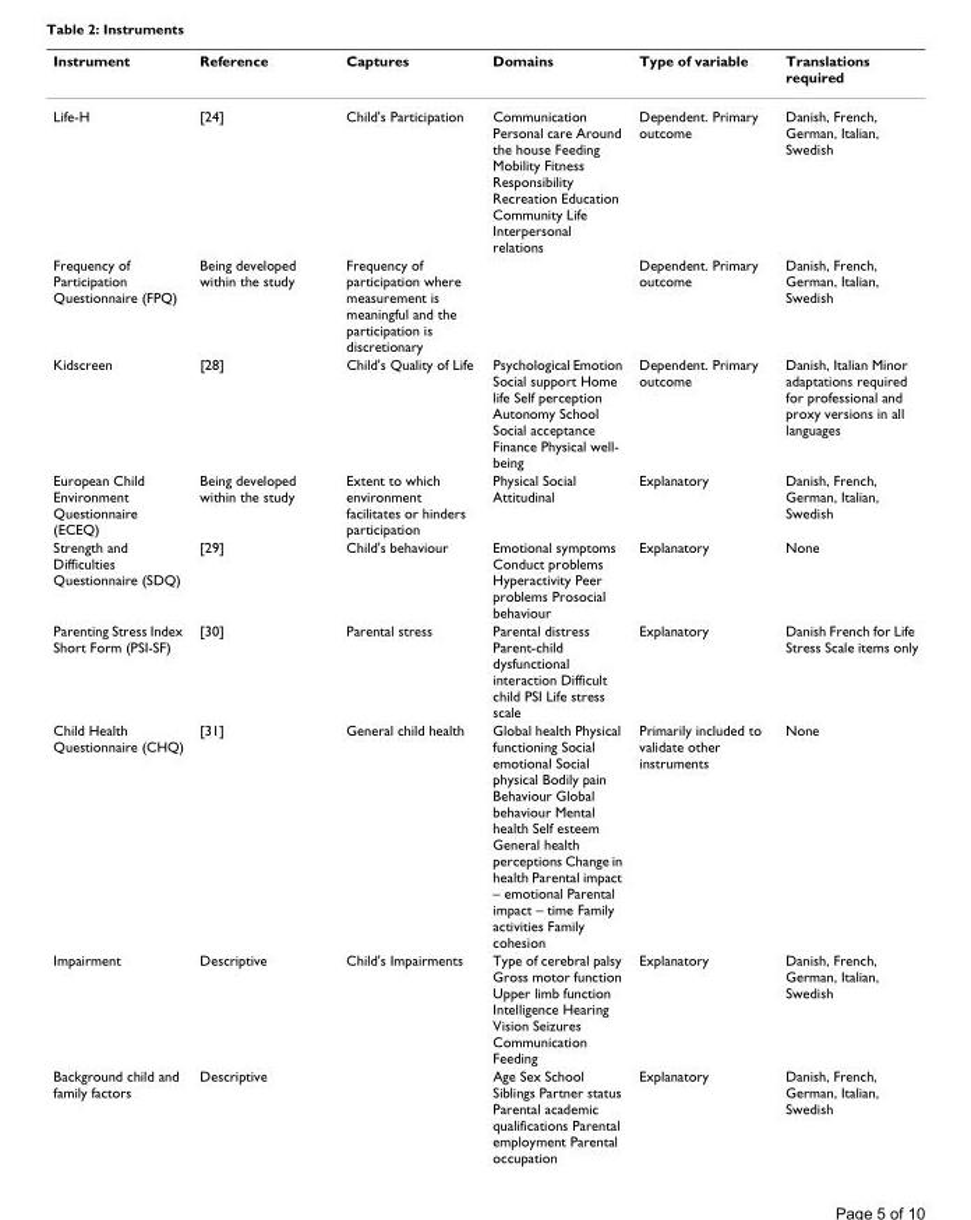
<table><thead><tr><td>Instrument</td><td>Reference</td><td>Captures</td><td>Domains</td><td>Type of variable</td><td>Translations required</td></tr></thead><tbody><tr><td>Life-H</td><td>[24]</td><td>Child&#x27;s Participation</td><td>Communication Personal care Around the house Feeding Mobility Fitness Responsibility Recreation Education Community Life Interpersonal relations</td><td>Dependent. Primary outcome</td><td>Danish, French, German, Italian, Swedish</td></tr><tr><td>Frequency of Participation Questionnaire (FPQ)</td><td>Being developed within the study</td><td>Frequency of participation where measurement is meaningful and the participation is discretionary</td><td></td><td>Dependent. Primary outcome</td><td>Danish, French, German, Italian, Swedish</td></tr><tr><td>Kidscreen</td><td>[28]</td><td>Child&#x27;s Quality of Life</td><td>Psychological Emotion Social support Home life Self perception Autonomy School Social acceptance Finance Physical well- being</td><td>Dependent. Primary outcome</td><td>Danish, Italian Minor adaptations required for professional and proxy versions in all languages</td></tr><tr><td>European Child Environment Questionnaire (ECEQ)</td><td>Being developed within the study</td><td>Extent to which environment facilitates or hinders participation</td><td>Physical Social Attitudinal</td><td>Explanatory</td><td>Danish, French, German, Italian, Swedish</td></tr><tr><td>Strength and Difficulties Questionnaire (SDQ)</td><td>[29]</td><td>Child&#x27;s behaviour</td><td>Emotional symptoms Conduct problems Hyperactivity Peer problems Prosocial behaviour</td><td>Explanatory</td><td>None</td></tr><tr><td>Parenting Stress Index Short Form (PSI-SF)</td><td>[30]</td><td>Parental stress</td><td>Parental distress Parent-child dysfunctional interaction Difficult child PSI Life stress scale</td><td>Explanatory</td><td>Danish French for Life Stress Scale items only</td></tr><tr><td>Child Health Questionnaire (CHQ)</td><td>[31]</td><td>General child health</td><td>Global health Physical functioning Social emotional Social physical Bodily pain Behaviour Global behaviour Mental health Self esteem General health perceptions Change in health Parental impact – emotional Parental impact – time Family activities Family cohesion</td><td>Primarily included to validate other instruments</td><td>None</td></tr><tr><td>Impairment</td><td>Descriptive</td><td>Child&#x27;s Impairments</td><td>Type of cerebral palsy Gross motor function Upper limb function Intelligence Hearing Vision Seizures Communication Feeding</td><td>Explanatory</td><td>Danish, French, German, Italian, Swedish</td></tr><tr><td>Background child and family factors</td><td>Descriptive</td><td></td><td>Age Sex School Siblings Partner status Parental academic qualifications Parental employment Parental occupation</td><td>Explanatory</td><td>Danish, French, German, Italian, Swedish</td></tr></tbody></table>